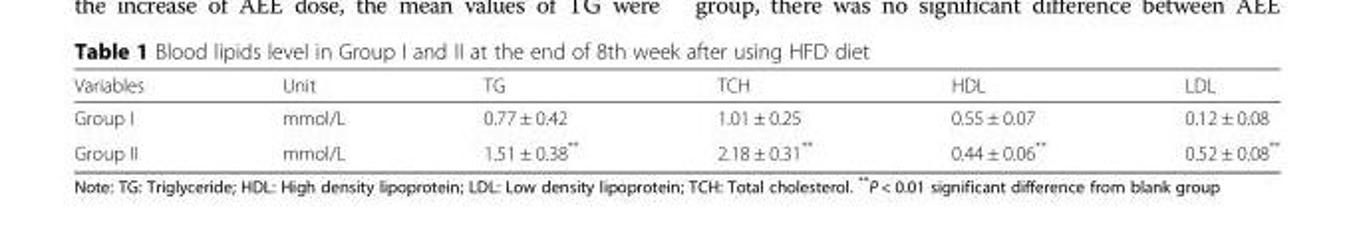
<table><thead><tr><td>Variables</td><td>Unit</td><td>TG</td><td>TCH</td><td>HDL</td><td>LDL</td></tr></thead><tbody><tr><td>Group I</td><td>mmol/L</td><td>0.77 ± 0.42</td><td>1.01 ± 0.25</td><td>0.55 ± 0.07</td><td>0.12 ± 0.08</td></tr><tr><td>Group II</td><td>mmol/L</td><td>1.51 ± 0.38**</td><td>2.18 ± 0.31**</td><td>0.44 ± 0.06**</td><td>0.52 ± 0.08**</td></tr></tbody></table>